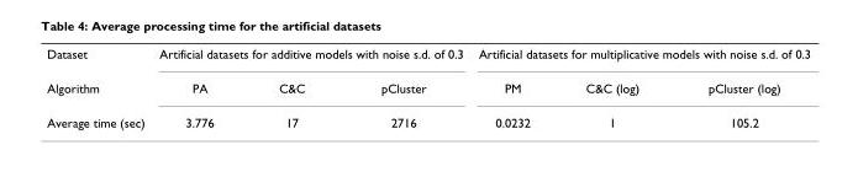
<table><tbody><tr><td>Dataset</td><td colspan="3">Artificial datasets for additive models with noise s.d. of 0.3</td><td colspan="3">Artificial datasets for multiplicative models with noise s.d. of 0.3</td></tr><tr><td>Algorithm</td><td>PA</td><td>C&amp;C</td><td>pCluster</td><td>PM</td><td>C&amp;C (log)</td><td>pCluster (log)</td></tr><tr><td>Average time (sec)</td><td>3.776</td><td>17</td><td>2716</td><td>0.0232</td><td>1</td><td>105.2</td></tr></tbody></table>